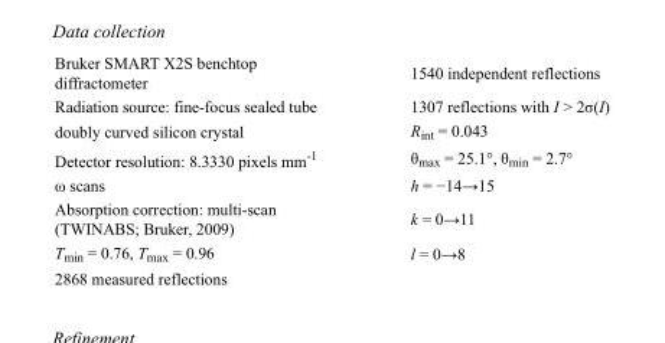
<table><tbody><tr><td>Bruker SMART X2S benchtop diffractometer</td><td>1540 independent reflections</td></tr><tr><td>Radiation source: fine-focus sealed tube</td><td>1307 reflections with I &gt; 2σ(I)</td></tr><tr><td>doubly curved silicon crystal</td><td>R<sub>int</sub> = 0.043</td></tr><tr><td>Detector resolution: 8.3330 pixels mm<sup>-1</sup></td><td>θ<sub>max</sub> = 25.1°, θ<sub>min</sub> = 2.7°</td></tr><tr><td>ω scans</td><td>h = −14→15</td></tr><tr><td>Absorption correction: multi-scan (TWINABS; Bruker, 2009)</td><td>k = 0→11</td></tr><tr><td>T<sub>min</sub> = 0.76, T<sub>max</sub> = 0.96</td><td>l = 0→8</td></tr><tr><td>2868 measured reflections</td><td></td></tr></tbody></table>